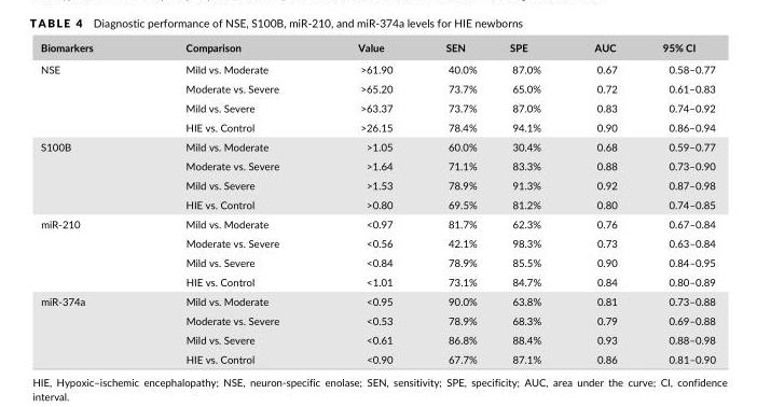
<table><thead><tr><td>Biomarkers</td><td>Comparison</td><td>Value</td><td>SEN</td><td>SPE</td><td>AUC</td><td>95% CI</td></tr></thead><tbody><tr><td rowspan="4">NSE</td><td>Mild vs. Moderate</td><td>&gt;61.90</td><td>40.0%</td><td>87.0%</td><td>0.67</td><td>0.58–0.77</td></tr><tr><td>Moderate vs. Severe</td><td>&gt;65.20</td><td>73.7%</td><td>65.0%</td><td>0.72</td><td>0.61–0.83</td></tr><tr><td>Mild vs. Severe</td><td>&gt;63.37</td><td>73.7%</td><td>87.0%</td><td>0.83</td><td>0.74–0.92</td></tr><tr><td>HIE vs. Control</td><td>&gt;26.15</td><td>78.4%</td><td>94.1%</td><td>0.90</td><td>0.86–0.94</td></tr><tr><td rowspan="4">S100B</td><td>Mild vs. Moderate</td><td>&gt;1.05</td><td>60.0%</td><td>30.4%</td><td>0.68</td><td>0.59–0.77</td></tr><tr><td>Moderate vs. Severe</td><td>&gt;1.64</td><td>71.1%</td><td>83.3%</td><td>0.88</td><td>0.73–0.90</td></tr><tr><td>Mild vs. Severe</td><td>&gt;1.53</td><td>78.9%</td><td>91.3%</td><td>0.92</td><td>0.87–0.98</td></tr><tr><td>HIE vs. Control</td><td>&gt;0.80</td><td>69.5%</td><td>81.2%</td><td>0.80</td><td>0.74–0.85</td></tr><tr><td rowspan="4">miR- 210</td><td>Mild vs. Moderate</td><td>&lt;0.97</td><td>81.7%</td><td>62.3%</td><td>0.76</td><td>0.67–0.84</td></tr><tr><td>Moderate vs. Severe</td><td>&lt;0.56</td><td>42.1%</td><td>98.3%</td><td>0.73</td><td>0.63–0.84</td></tr><tr><td>Mild vs. Severe</td><td>&lt;0.84</td><td>78.9%</td><td>85.5%</td><td>0.90</td><td>0.84–0.95</td></tr><tr><td>HIE vs. Control</td><td>&lt;1.01</td><td>73.1%</td><td>84.7%</td><td>0.84</td><td>0.80–0.89</td></tr><tr><td rowspan="4">miR- 374a</td><td>Mild vs. Moderate</td><td>&lt;0.95</td><td>90.0%</td><td>63.8%</td><td>0.81</td><td>0.73–0.88</td></tr><tr><td>Moderate vs. Severe</td><td>&lt;0.53</td><td>78.9%</td><td>68.3%</td><td>0.79</td><td>0.69–0.88</td></tr><tr><td>Mild vs. Severe</td><td>&lt;0.61</td><td>86.8%</td><td>88.4%</td><td>0.93</td><td>0.88–0.98</td></tr><tr><td>HIE vs. Control</td><td>&lt;0.90</td><td>67.7%</td><td>87.1%</td><td>0.86</td><td>0.81–0.90</td></tr></tbody></table>